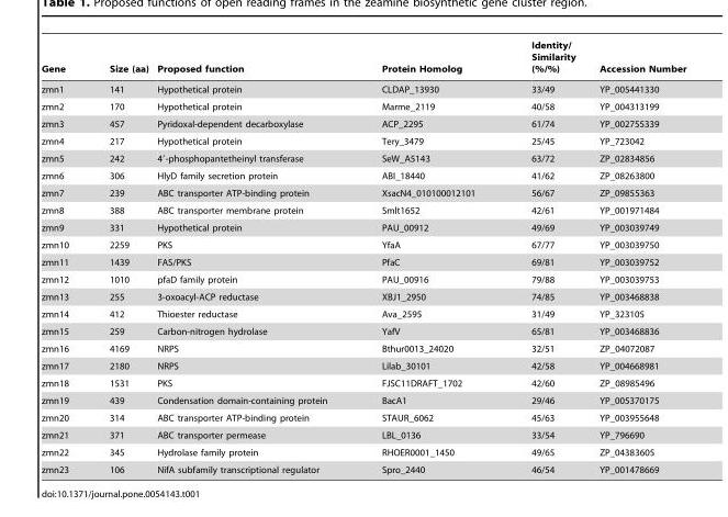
<table><thead><tr><td>Gene</td><td>Size (aa)</td><td>Proposed function</td><td>Protein Homolog</td><td>Identity/ Similarity (%/%)</td><td>Accession Number</td></tr></thead><tbody><tr><td>zmn1</td><td>141</td><td>Hypothetical protein</td><td>CLDAP_13930</td><td>33/49</td><td>YP_005441330</td></tr><tr><td>zmn2</td><td>170</td><td>Hypothetical protein</td><td>Marme_2119</td><td>40/58</td><td>YP_004313199</td></tr><tr><td>zmn3</td><td>457</td><td>Pyridoxal-dependent decarboxylase</td><td>ACP_2295</td><td>61/74</td><td>YP_002755339</td></tr><tr><td>zmn4</td><td>217</td><td>Hypothetical protein</td><td>Tery_3479</td><td>25/45</td><td>YP_723042</td></tr><tr><td>zmn5</td><td>242</td><td>4′-phosphopantetheinyl transferase</td><td>SeW_A5143</td><td>63/72</td><td>ZP_02834856</td></tr><tr><td>zmn6</td><td>306</td><td>HlyD family secretion protein</td><td>ABI_18440</td><td>41/62</td><td>ZP_08263800</td></tr><tr><td>zmn7</td><td>239</td><td>ABC transporter ATP-binding protein</td><td>XsacN4_010100012101</td><td>56/67</td><td>ZP_09855363</td></tr><tr><td>zmn8</td><td>388</td><td>ABC transporter membrane protein</td><td>Smlt1652</td><td>42/61</td><td>YP_001971484</td></tr><tr><td>zmn9</td><td>331</td><td>Hypothetical protein</td><td>PAU_00912</td><td>49/69</td><td>YP_003039749</td></tr><tr><td>zmn10</td><td>2259</td><td>PKS</td><td>YfaA</td><td>67/77</td><td>YP_003039750</td></tr><tr><td>zmn11</td><td>1439</td><td>FAS/PKS</td><td>PfaC</td><td>69/81</td><td>YP_003039752</td></tr><tr><td>zmn12</td><td>1010</td><td>pfaD family protein</td><td>PAU_00916</td><td>79/88</td><td>YP_003039753</td></tr><tr><td>zmn13</td><td>255</td><td>3-oxoacyl-ACP reductase</td><td>XBJ1_2950</td><td>74/85</td><td>YP_003468838</td></tr><tr><td>zmn14</td><td>412</td><td>Thioester reductase</td><td>Ava_2595</td><td>31/49</td><td>YP_323105</td></tr><tr><td>zmn15</td><td>259</td><td>Carbon-nitrogen hydrolase</td><td>YafV</td><td>65/81</td><td>YP_003468836</td></tr><tr><td>zmn16</td><td>4169</td><td>NRPS</td><td>Bthur0013_24020</td><td>32/51</td><td>ZP_04072087</td></tr><tr><td>zmn17</td><td>2180</td><td>NRPS</td><td>Lilab_30101</td><td>42/58</td><td>YP_004668981</td></tr><tr><td>zmn18</td><td>1531</td><td>PKS</td><td>FJSC11DRAFT_1702</td><td>42/60</td><td>ZP_08985496</td></tr><tr><td>zmn19</td><td>439</td><td>Condensation domain-containing protein</td><td>BacA1</td><td>29/46</td><td>YP_005370175</td></tr><tr><td>zmn20</td><td>314</td><td>ABC transporter ATP-binding protein</td><td>STAUR_6062</td><td>45/63</td><td>YP_003955648</td></tr><tr><td>zmn21</td><td>371</td><td>ABC transporter permease</td><td>LBL_0136</td><td>33/54</td><td>YP_796690</td></tr><tr><td>zmn22</td><td>345</td><td>Hydrolase family protein</td><td>RHOER0001_1450</td><td>49/65</td><td>ZP_04383605</td></tr><tr><td>zmn23</td><td>106</td><td>NifA subfamily transcriptional regulator</td><td>Spro_2440</td><td>46/54</td><td>YP_001478669</td></tr></tbody></table>